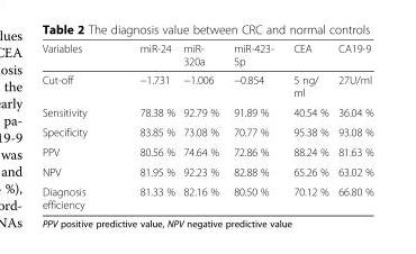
<table><thead><tr><td>Variables</td><td>miR-24</td><td>miR- 320a</td><td>miR-423- 5p</td><td>CEA</td><td>CA19-9</td></tr></thead><tbody><tr><td>Cut-off</td><td>−1.731</td><td>−1.006</td><td>−0.854</td><td>5 ng/ ml</td><td>27U/ml</td></tr><tr><td>Sensitivity</td><td>78.38 %</td><td>92.79 %</td><td>91.89 %</td><td>40.54 %</td><td>36.04 %</td></tr><tr><td>Specificity</td><td>83.85 %</td><td>73.08 %</td><td>70.77 %</td><td>95.38 %</td><td>93.08 %</td></tr><tr><td>PPV</td><td>80.56 %</td><td>74.64 %</td><td>72.86 %</td><td>88.24 %</td><td>81.63 %</td></tr><tr><td>NPV</td><td>81.95 %</td><td>92.23 %</td><td>82.88 %</td><td>65.26 %</td><td>63.02 %</td></tr><tr><td>Diagnosis efficiency</td><td>81.33 %</td><td>82.16 %</td><td>80.50 %</td><td>70.12 %</td><td>66.80 %</td></tr></tbody></table>